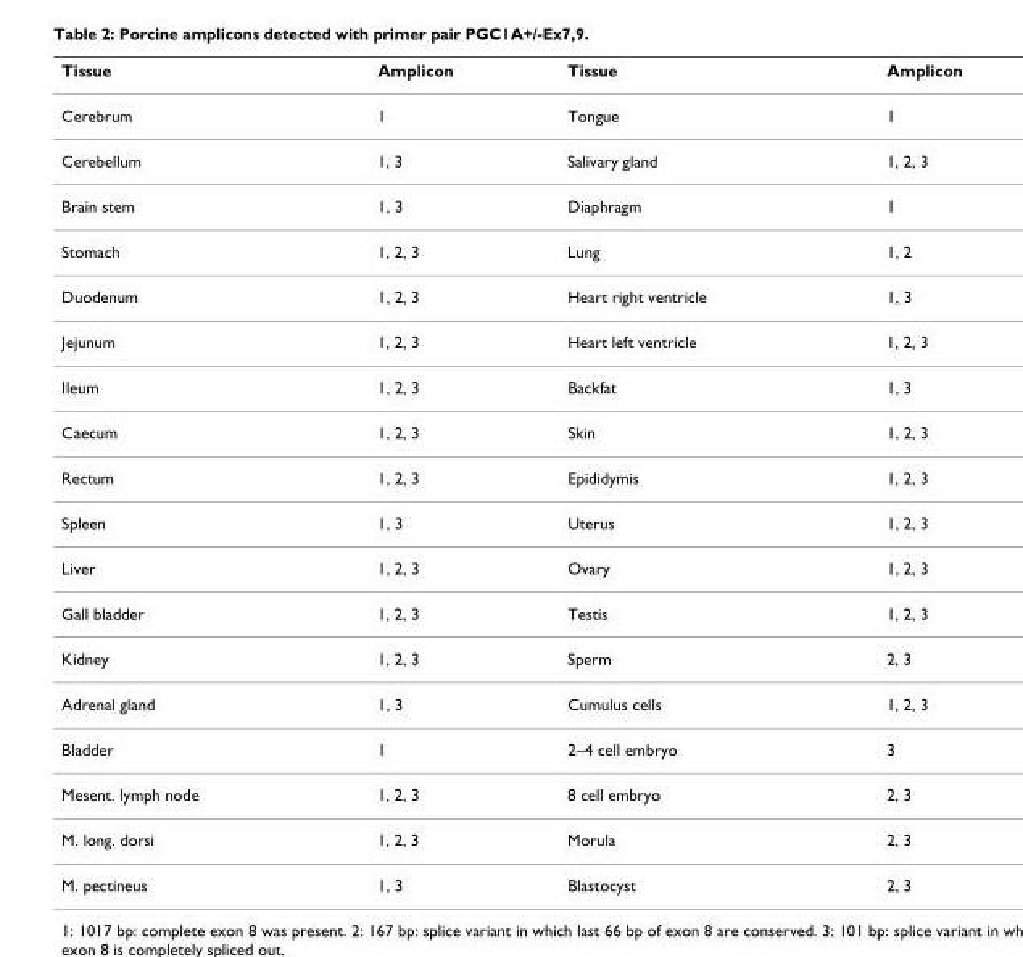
<table><thead><tr><td>Tissue</td><td>Amplicon</td><td>Tissue</td><td>Amplicon</td></tr></thead><tbody><tr><td>Cerebrum</td><td>1</td><td>Tongue</td><td>1</td></tr><tr><td>Cerebellum</td><td>1, 3</td><td>Salivary gland</td><td>1, 2, 3</td></tr><tr><td>Brain stem</td><td>1, 3</td><td>Diaphragm</td><td>1</td></tr><tr><td>Stomach</td><td>1, 2, 3</td><td>Lung</td><td>1, 2</td></tr><tr><td>Duodenum</td><td>1, 2, 3</td><td>Heart right ventricle</td><td>1, 3</td></tr><tr><td>Jejunum</td><td>1, 2, 3</td><td>Heart left ventricle</td><td>1, 2, 3</td></tr><tr><td>Ileum</td><td>1, 2, 3</td><td>Backfat</td><td>1, 3</td></tr><tr><td>Caecum</td><td>1, 2, 3</td><td>Skin</td><td>1, 2, 3</td></tr><tr><td>Rectum</td><td>1, 2, 3</td><td>Epididymis</td><td>1, 2, 3</td></tr><tr><td>Spleen</td><td>1, 3</td><td>Uterus</td><td>1, 2, 3</td></tr><tr><td>Liver</td><td>1, 2, 3</td><td>Ovary</td><td>1, 2, 3</td></tr><tr><td>Gall bladder</td><td>1, 2, 3</td><td>Testis</td><td>1, 2, 3</td></tr><tr><td>Kidney</td><td>1, 2, 3</td><td>Sperm</td><td>2, 3</td></tr><tr><td>Adrenal gland</td><td>1, 3</td><td>Cumulus cells</td><td>1, 2, 3</td></tr><tr><td>Bladder</td><td>1</td><td>2–4 cell embryo</td><td>3</td></tr><tr><td>Mesent. lymph node</td><td>1, 2, 3</td><td>8 cell embryo</td><td>2, 3</td></tr><tr><td>M. long. dorsi</td><td>1, 2, 3</td><td>Morula</td><td>2, 3</td></tr><tr><td>M. pectineus</td><td>1, 3</td><td>Blastocyst</td><td>2, 3</td></tr></tbody></table>